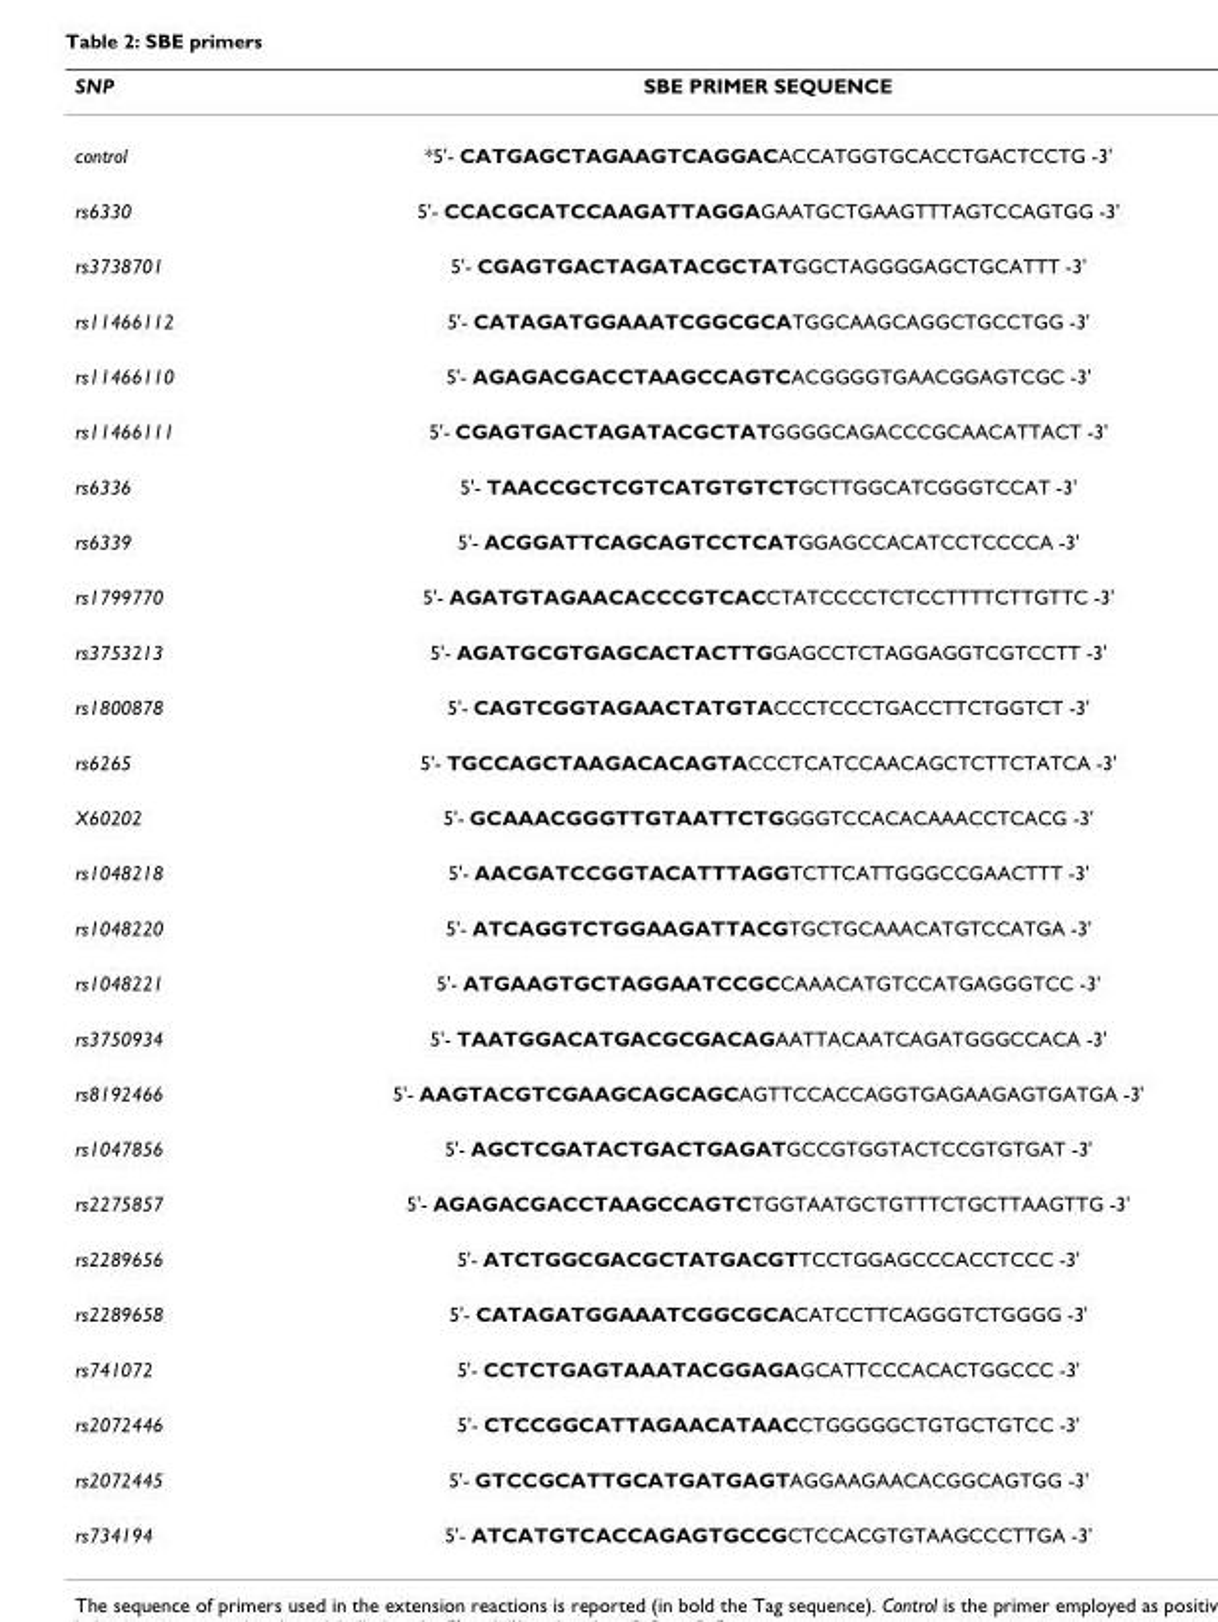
<table><thead><tr><td>SNP</td><td>SBE PRIMER SEQUENCE</td></tr></thead><tbody><tr><td>control</td><td>*5&#x27;- CATGAGCTAGAAGTCAGGACACCATGGTGCACCTGACTCCTG -3&#x27;</td></tr><tr><td>rs6330</td><td>5&#x27;- CCACGCATCCAAGATTAGGAGAATGCTGAAGTTTAGTCCAGTGG -3&#x27;</td></tr><tr><td>rs3738701</td><td>5&#x27;- CGAGTGACTAGATACGCTATGGCTAGGGGAGCTGCATTT -3&#x27;</td></tr><tr><td>rs11466112</td><td>5&#x27;- CATAGATGGAAATCGGCGCATGGCAAGCAGGCTGCCTGG -3&#x27;</td></tr><tr><td>rs11466110</td><td>5&#x27;- AGAGACGACCTAAGCCAGTCACGGGGTGAACGGAGTCGC -3&#x27;</td></tr><tr><td>rs11466111</td><td>5&#x27;- CGAGTGACTAGATACGCTATGGGGCAGACCCGCAACATTACT -3&#x27;</td></tr><tr><td>rs6336</td><td>5&#x27;- TAACCGCTCGTCATGTGTCTGCTTGGCATCGGGTCCAT -3&#x27;</td></tr><tr><td>rs6339</td><td>5&#x27;- ACGGATTCAGCAGTCCTCATGGAGCCACATCCTCCCCA -3&#x27;</td></tr><tr><td>rs1799770</td><td>5&#x27;- AGATGTAGAACACCCGTCACCTATCCCCTCTCCTTTTCTTGTTC -3&#x27;</td></tr><tr><td>rs3753213</td><td>5&#x27;- AGATGCGTGAGCACTACTTGGAGCCTCTAGGAGGTCGTCCTT -3&#x27;</td></tr><tr><td>rs1800878</td><td>5&#x27;- CAGTCGGTAGAACTATGTACCCTCCCTGACCTTCTGGTCT -3&#x27;</td></tr><tr><td>rs6265</td><td>5&#x27;- TGCCAGCTAAGACACAGTACCCTCATCCAACAGCTCTTCTATCA -3&#x27;</td></tr><tr><td>X60202</td><td>5&#x27;- GCAAACGGGTTGTAATTCTGGGGTCCACACAAACCTCACG -3&#x27;</td></tr><tr><td>rs1048218</td><td>5&#x27;- AACGATCCGGTACATTTAGGTCTTCATTGGGCCGAACTTT -3&#x27;</td></tr><tr><td>rs1048220</td><td>5&#x27;- ATCAGGTCTGGAAGATTACGTGCTGCAAACATGTCCATGA -3&#x27;</td></tr><tr><td>rs1048221</td><td>5&#x27;- ATGAAGTGCTAGGAATCCGCCAAACATGTCCATGAGGGTCC -3&#x27;</td></tr><tr><td>rs3750934</td><td>5&#x27;- TAATGGACATGACGCGACAGAATTACAATCAGATGGGCCACA -3&#x27;</td></tr><tr><td>rs8192466</td><td>5&#x27;- AAGTACGTCGAAGCAGCAGCAGTTCCACCAGGTGAGAAGAGTGATGA -3&#x27;</td></tr><tr><td>rs1047856</td><td>5&#x27;- AGCTCGATACTGACTGAGATGCCGTGGTACTCCGTGTGAT -3&#x27;</td></tr><tr><td>rs2275857</td><td>5&#x27;- AGAGACGACCTAAGCCAGTCTGGTAATGCTGTTTCTGCTTAAGTTG -3&#x27;</td></tr><tr><td>rs2289656</td><td>5&#x27;- ATCTGGCGACGCTATGACGTTCCTGGAGCCCACCTCCC -3&#x27;</td></tr><tr><td>rs2289658</td><td>5&#x27;- CATAGATGGAAATCGGCGCACATCCTTCAGGGTCTGGGG -3&#x27;</td></tr><tr><td>rs741072</td><td>5&#x27;- CCTCTGAGTAAATACGGAGAGCATTCCCACACTGGCCC -3&#x27;</td></tr><tr><td>rs2072446</td><td>5&#x27;- CTCCGGCATTAGAACATAACCTGGGGGCTGTGCTGTCC -3&#x27;</td></tr><tr><td>rs2072445</td><td>5&#x27;- GTCCGCATTGCATGATGAGTAGGAAGAACACGGCAGTGG -3&#x27;</td></tr><tr><td>rs734194</td><td>5&#x27;- ATCATGTCACCAGAGTGCCGCTCCACGTGTAAGCCCTTGA -3&#x27;</td></tr></tbody></table>